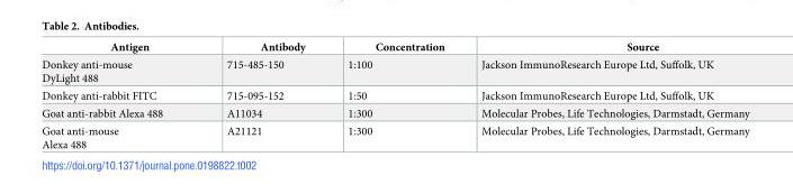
<table><thead><tr><td>Antigen</td><td>Antibody</td><td>Concentration</td><td>Source</td></tr></thead><tbody><tr><td>Donkey anti-mouse DyLight 488</td><td>715-485-150</td><td>1:100</td><td>Jackson ImmunoResearch Europe Ltd, Suffolk, UK</td></tr><tr><td>Donkey anti-rabbit FITC</td><td>715-095-152</td><td>1:50</td><td>Jackson ImmunoResearch Europe Ltd, Suffolk, UK</td></tr><tr><td>Goat anti-rabbit Alexa 488</td><td>A11034</td><td>1:300</td><td>Molecular Probes, Life Technologies, Darmstadt, Germany</td></tr><tr><td>Goat anti-mouse Alexa 488</td><td>A21121</td><td>1:300</td><td>Molecular Probes, Life Technologies, Darmstadt, Germany</td></tr></tbody></table>